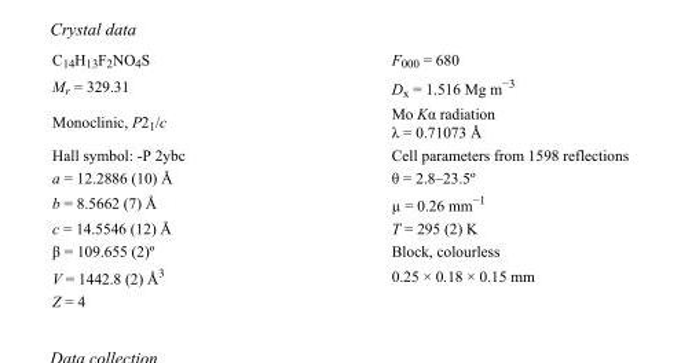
<table><tbody><tr><td>C<sub>14</sub>H<sub>13</sub>F<sub>2</sub>NO<sub>4</sub>S</td><td>F<sub>000</sub> = 680</td></tr><tr><td>M<sub>r</sub> = 329.31</td><td>D<sub>x</sub> = 1.516 Mg m<sup>−3</sup></td></tr><tr><td>Monoclinic, P2<sub>1</sub>/c</td><td>Mo Kα radiation λ = 0.71073 Å</td></tr><tr><td>Hall symbol: -P 2ybc</td><td>Cell parameters from 1598 reflections</td></tr><tr><td>a = 12.2886 (10) Å</td><td>θ = 2.8–23.5º</td></tr><tr><td>b = 8.5662 (7) Å</td><td>µ = 0.26 mm<sup>−1</sup></td></tr><tr><td>c = 14.5546 (12) Å</td><td>T = 295 (2) K</td></tr><tr><td>β = 109.655 (2)º</td><td>Block, colourless</td></tr><tr><td>V = 1442.8 (2) Å<sup>3</sup></td><td>0.25 × 0.18 × 0.15 mm</td></tr><tr><td>Z = 4</td><td></td></tr></tbody></table>